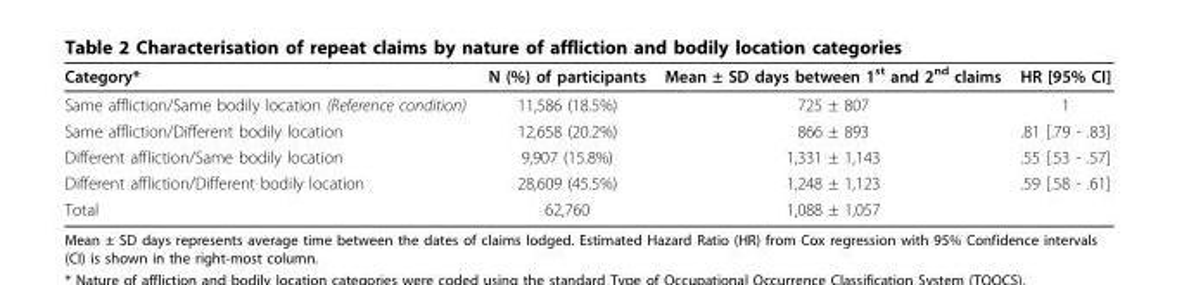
<table><thead><tr><td>Category*</td><td>N (%) of participants</td><td>Mean ± SD days between 1<sup>st</sup> and 2<sup>nd</sup> claims</td><td>HR [95% CI]</td></tr></thead><tbody><tr><td>Same affliction/Same bodily location (Reference condition)</td><td>11,586 (18.5%)</td><td>725 ± 807</td><td>1</td></tr><tr><td>Same affliction/Different bodily location</td><td>12,658 (20.2%)</td><td>866 ± 893</td><td>.81 [.79 - .83]</td></tr><tr><td>Different affliction/Same bodily location</td><td>9,907 (15.8%)</td><td>1,331 ± 1,143</td><td>.55 [.53 - .57]</td></tr><tr><td>Different affliction/Different bodily location</td><td>28,609 (45.5%)</td><td>1,248 ± 1,123</td><td>.59 [.58 - .61]</td></tr><tr><td>Total</td><td>62,760</td><td>1,088 ± 1,057</td><td></td></tr></tbody></table>